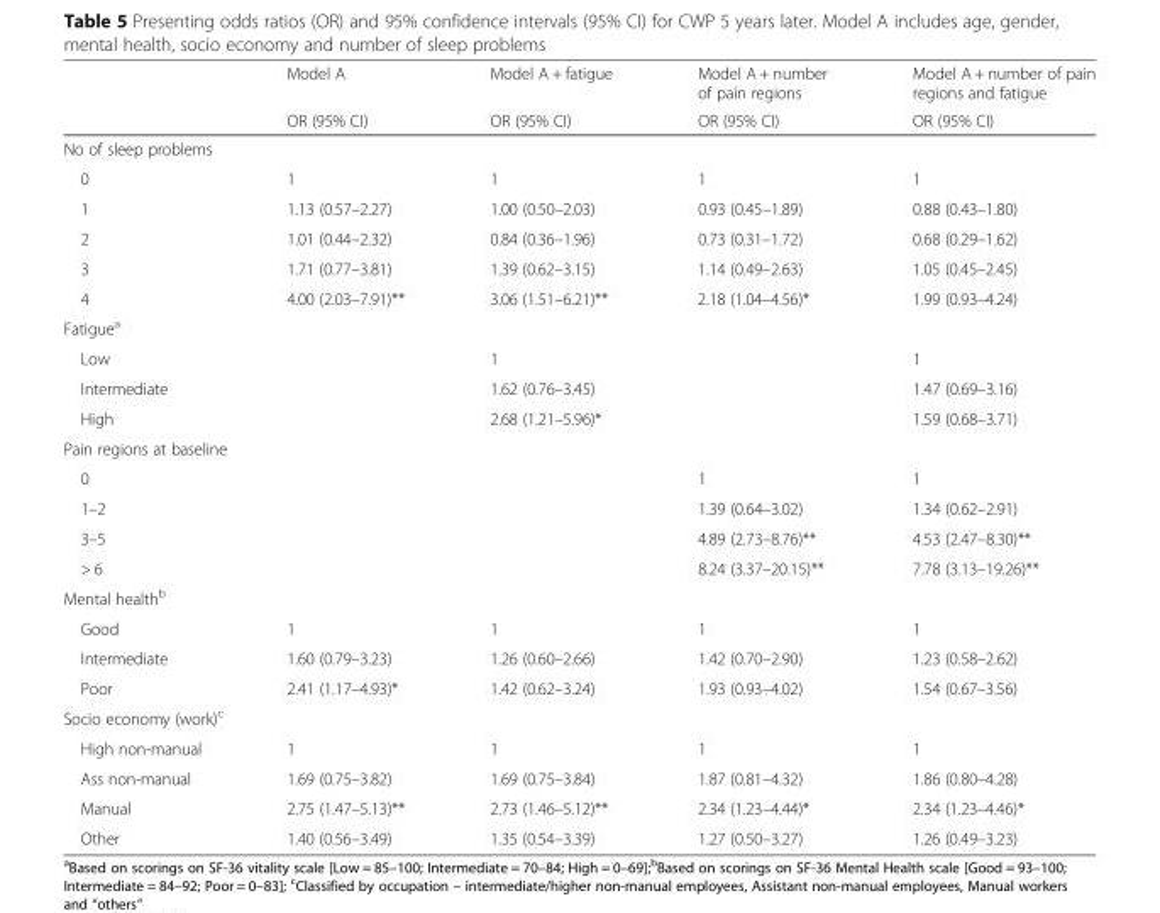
<table><thead><tr><td rowspan="2"></td><td rowspan="2">Model A OR (95% CI)</td><td rowspan="2">Model A + fatigue OR (95% CI)</td><td rowspan="2">Model A + number of pain regions OR (95% CI)</td><td rowspan="2">Model A + number of pain regions and fatigue OR (95% CI)</td></tr><tr></tr></thead><tbody><tr><td colspan="5">No of sleep problems</td></tr><tr><td>0</td><td>1</td><td>1</td><td>1</td><td>1</td></tr><tr><td>1</td><td>1.13 (0.57–2.27)</td><td>1.00 (0.50–2.03)</td><td>0.93 (0.45–1.89)</td><td>0.88 (0.43–1.80)</td></tr><tr><td>2</td><td>1.01 (0.44–2.32)</td><td>0.84 (0.36–1.96)</td><td>0.73 (0.31–1.72)</td><td>0.68 (0.29–1.62)</td></tr><tr><td>3</td><td>1.71 (0.77–3.81)</td><td>1.39 (0.62–3.15)</td><td>1.14 (0.49–2.63)</td><td>1.05 (0.45–2.45)</td></tr><tr><td>4</td><td>4.00 (2.03–7.91)**</td><td>3.06 (1.51–6.21)**</td><td>2.18 (1.04–4.56)*</td><td>1.99 (0.93–4.24)</td></tr><tr><td colspan="5">Fatigue<sup>a</sup></td></tr><tr><td>Low</td><td></td><td>1</td><td></td><td>1</td></tr><tr><td>Intermediate</td><td></td><td>1.62 (0.76–3.45)</td><td></td><td>1.47 (0.69–3.16)</td></tr><tr><td>High</td><td></td><td>2.68 (1.21–5.96)*</td><td></td><td>1.59 (0.68–3.71)</td></tr><tr><td colspan="5">Pain regions at baseline</td></tr><tr><td>0</td><td></td><td></td><td>1</td><td>1</td></tr><tr><td>1–2</td><td></td><td></td><td>1.39 (0.64–3.02)</td><td>1.34 (0.62–2.91)</td></tr><tr><td>3–5</td><td></td><td></td><td>4.89 (2.73–8.76)**</td><td>4.53 (2.47–8.30)**</td></tr><tr><td>&gt; 6</td><td></td><td></td><td>8.24 (3.37–20.15)**</td><td>7.78 (3.13–19.26)**</td></tr><tr><td colspan="5">Mental health<sup>b</sup></td></tr><tr><td>Good</td><td>1</td><td>1</td><td>1</td><td>1</td></tr><tr><td>Intermediate</td><td>1.60 (0.79–3.23)</td><td>1.26 (0.60–2.66)</td><td>1.42 (0.70–2.90)</td><td>1.23 (0.58–2.62)</td></tr><tr><td>Poor</td><td>2.41 (1.17–4.93)*</td><td>1.42 (0.62–3.24)</td><td>1.93 (0.93–4.02)</td><td>1.54 (0.67–3.56)</td></tr><tr><td colspan="5">Socio economy (work)<sup>c</sup></td></tr><tr><td>High non-manual</td><td>1</td><td>1</td><td>1</td><td>1</td></tr><tr><td>Ass non-manual</td><td>1.69 (0.75–3.82)</td><td>1.69 (0.75–3.84)</td><td>1.87 (0.81–4.32)</td><td>1.86 (0.80–4.28)</td></tr><tr><td>Manual</td><td>2.75 (1.47–5.13)**</td><td>2.73 (1.46–5.12)**</td><td>2.34 (1.23–4.44)*</td><td>2.34 (1.23–4.46)*</td></tr><tr><td>Other</td><td>1.40 (0.56–3.49)</td><td>1.35 (0.54–3.39)</td><td>1.27 (0.50–3.27)</td><td>1.26 (0.49–3.23)</td></tr></tbody></table>